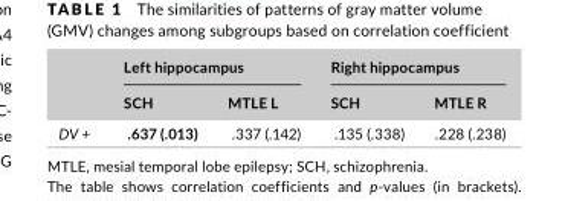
<table><thead><tr><td rowspan="2"></td><td colspan="2">Left hippocampus</td><td colspan="2">Right hippocampus</td></tr><tr><td>SCH</td><td>MTLE L</td><td>SCH</td><td>MTLE R</td></tr></thead><tbody><tr><td>DV +</td><td>.637 (.013)</td><td>.337 (.142)</td><td>.135 (.338)</td><td>.228 (.238)</td></tr></tbody></table>